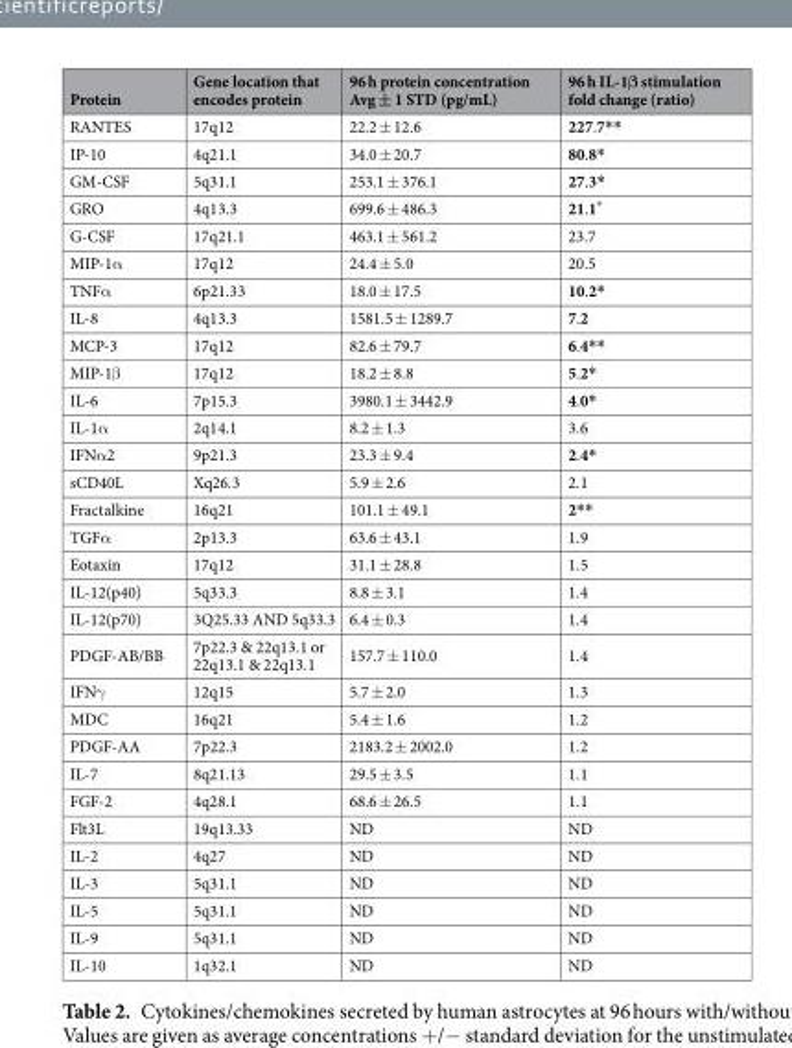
<table><thead><tr><td>Protein</td><td>Gene location that encodes protein</td><td>96 h protein concentration Avg ± 1 STD (pg/mL)</td><td>96 h IL-1β stimulation fold change (ratio)</td></tr></thead><tbody><tr><td>RANTES</td><td>17q12</td><td>22.2 ± 12.6</td><td>227.7**</td></tr><tr><td>IP-10</td><td>4q21.1</td><td>34.0 ± 20.7</td><td>80.8*</td></tr><tr><td>GM-CSF</td><td>5q31.1</td><td>253.1 ± 376.1</td><td>27.3*</td></tr><tr><td>GRO</td><td>4q13.3</td><td>699.6 ± 486.3</td><td>21.1*</td></tr><tr><td>G-CSF</td><td>17q21.1</td><td>463.1 ± 561.2</td><td>23.7</td></tr><tr><td>MIP-1α</td><td>17q12</td><td>24.4 ± 5.0</td><td>20.5</td></tr><tr><td>TNFα</td><td>6p21.33</td><td>18.0 ± 17.5</td><td>10.2*</td></tr><tr><td>IL-8</td><td>4q13.3</td><td>1581.5 ± 1289.7</td><td>7.2</td></tr><tr><td>MCP-3</td><td>17q12</td><td>82.6 ± 79.7</td><td>6.4**</td></tr><tr><td>MIP-1β</td><td>17q12</td><td>18.2 ± 8.8</td><td>5.2*</td></tr><tr><td>IL-6</td><td>7p15.3</td><td>3980.1 ± 3442.9</td><td>4.0*</td></tr><tr><td>IL-1α</td><td>2q14.1</td><td>8.2 ± 1.3</td><td>3.6</td></tr><tr><td>IFNα2</td><td>9p21.3</td><td>23.3 ± 9.4</td><td>2.4*</td></tr><tr><td>sCD40L</td><td>Xq26.3</td><td>5.9 ± 2.6</td><td>2.1</td></tr><tr><td>Fractalkine</td><td>16q21</td><td>101.1 ± 49.1</td><td>2**</td></tr><tr><td>TGFα</td><td>2p13.3</td><td>63.6 ± 43.1</td><td>1.9</td></tr><tr><td>Eotaxin</td><td>17q12</td><td>31.1 ± 28.8</td><td>1.5</td></tr><tr><td>IL-12(p40)</td><td>5q33.3</td><td>8.8 ± 3.1</td><td>1.4</td></tr><tr><td>IL-12(p70)</td><td>3Q25.33 AND 5q33.3</td><td>6.4 ± 0.3</td><td>1.4</td></tr><tr><td>PDGF-AB/BB</td><td>7p22.3 &amp; 22q13.1 or 22q13.1 &amp; 22q13.1</td><td>157.7 ± 110.0</td><td>1.4</td></tr><tr><td>IFNγ</td><td>12q15</td><td>5.7 ± 2.0</td><td>1.3</td></tr><tr><td>MDC</td><td>16q21</td><td>5.4 ± 1.6</td><td>1.2</td></tr><tr><td>PDGF-AA</td><td>7p22.3</td><td>2183.2 ± 2002.0</td><td>1.2</td></tr><tr><td>IL-7</td><td>8q21.13</td><td>29.5 ± 3.5</td><td>1.1</td></tr><tr><td>FGF-2</td><td>4q28.1</td><td>68.6 ± 26.5</td><td>1.1</td></tr><tr><td>Flt3L</td><td>19q13.33</td><td>ND</td><td>ND</td></tr><tr><td>IL-2</td><td>4q27</td><td>ND</td><td>ND</td></tr><tr><td>IL-3</td><td>5q31.1</td><td>ND</td><td>ND</td></tr><tr><td>IL-5</td><td>5q31.1</td><td>ND</td><td>ND</td></tr><tr><td>IL-9</td><td>5q31.1</td><td>ND</td><td>ND</td></tr><tr><td>IL-10</td><td>1q32.1</td><td>ND</td><td>ND</td></tr></tbody></table>